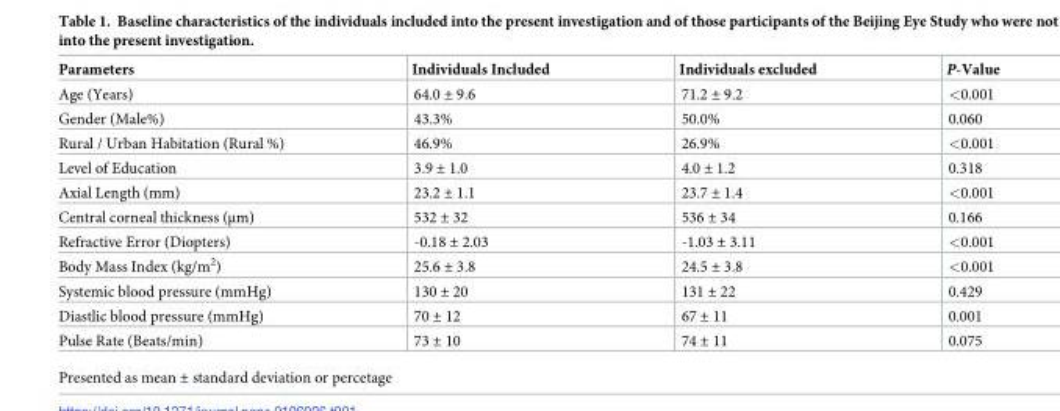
<table><thead><tr><td>Parameters</td><td>Individuals Included</td><td>Individuals excluded</td><td>P-Value</td></tr></thead><tbody><tr><td>Age (Years)</td><td>64.0 ± 9.6</td><td>71.2 ± 9.2</td><td>&lt;0.001</td></tr><tr><td>Gender (Male%)</td><td>43.3%</td><td>50.0%</td><td>0.060</td></tr><tr><td>Rural / Urban Habitation (Rural %)</td><td>46.9%</td><td>26.9%</td><td>&lt;0.001</td></tr><tr><td>Level of Education</td><td>3.9 ± 1.0</td><td>4.0 ± 1.2</td><td>0.318</td></tr><tr><td>Axial Length (mm)</td><td>23.2 ± 1.1</td><td>23.7 ± 1.4</td><td>&lt;0.001</td></tr><tr><td>Central corneal thickness (μm)</td><td>532 ± 32</td><td>536 ± 34</td><td>0.166</td></tr><tr><td>Refractive Error (Diopters)</td><td>-0.18 ± 2.03</td><td>-1.03 ± 3.11</td><td>&lt;0.001</td></tr><tr><td>Body Mass Index (kg/m<sup>2</sup>)</td><td>25.6 ± 3.8</td><td>24.5 ± 3.8</td><td>&lt;0.001</td></tr><tr><td>Systemic blood pressure (mmHg)</td><td>130 ± 20</td><td>131 ± 22</td><td>0.429</td></tr><tr><td>Diastlic blood pressure (mmHg)</td><td>70 ± 12</td><td>67 ± 11</td><td>0.001</td></tr><tr><td>Pulse Rate (Beats/min)</td><td>73 ± 10</td><td>74 ± 11</td><td>0.075</td></tr></tbody></table>